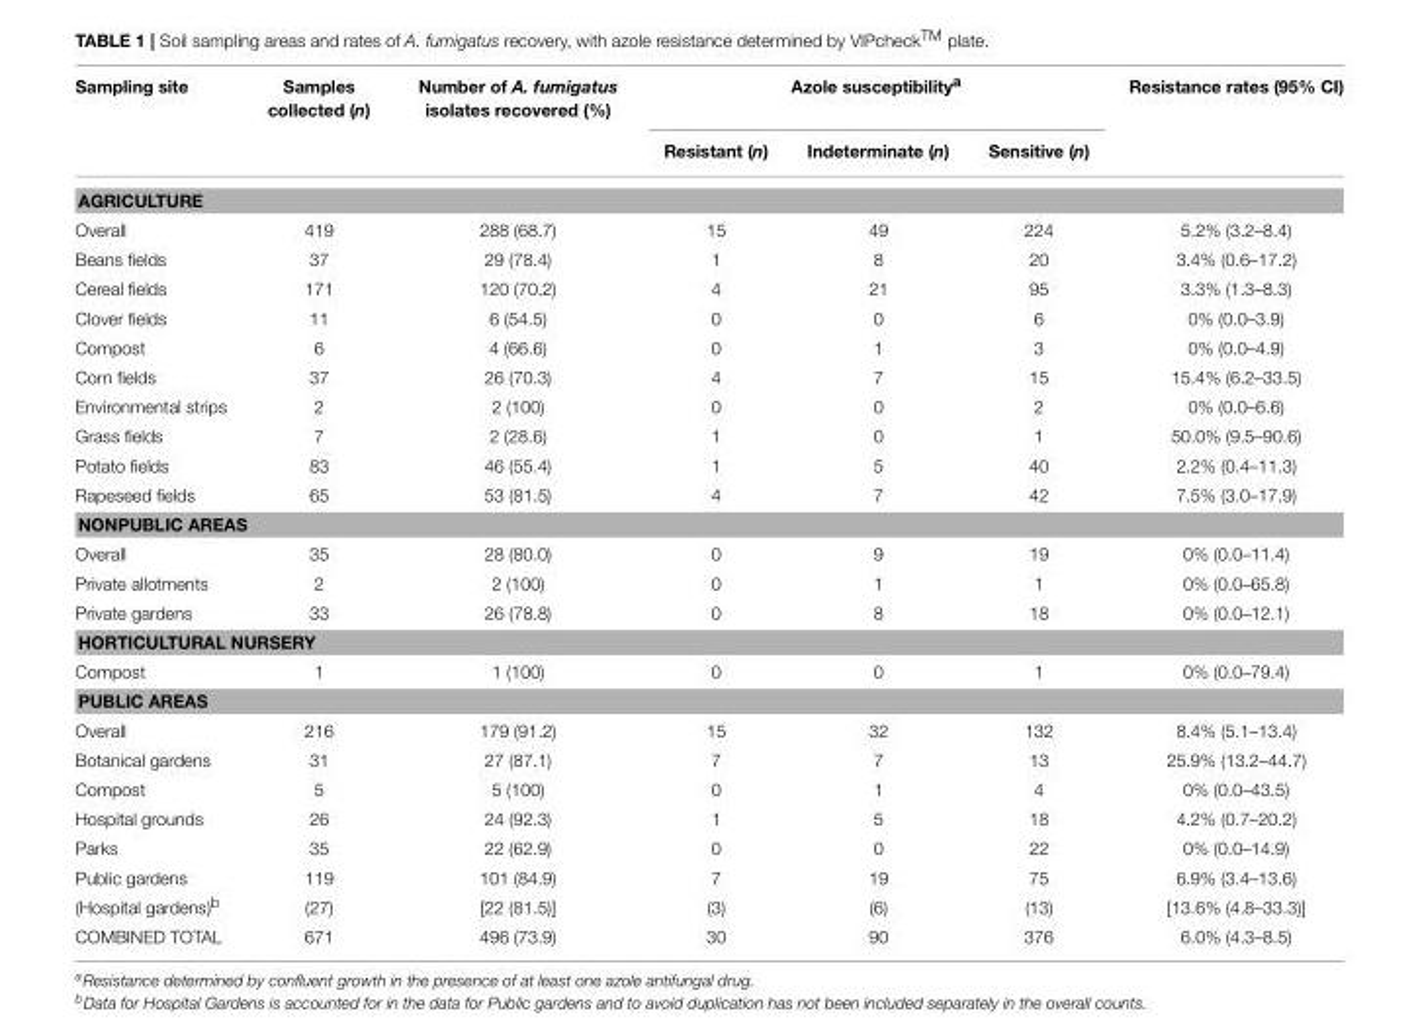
<table><thead><tr><td rowspan="2">Sampling site</td><td rowspan="2">Samples collected (n)</td><td rowspan="2">Number of A. fumigatus isolates recovered (%)</td><td colspan="3">Azole susceptibility<sup>a</sup></td><td rowspan="2">Resistance rates (95% CI)</td></tr><tr><td>Resistant (n)</td><td>Indeterminate (n)</td><td>Sensitive (n)</td></tr></thead><tbody><tr><td colspan="7">AGRICULTURE</td></tr><tr><td>Overall</td><td>419</td><td>288 (68.7)</td><td>15</td><td>49</td><td>224</td><td>5.2% (3.2–8.4)</td></tr><tr><td>Beans fields</td><td>37</td><td>29 (78.4)</td><td>1</td><td>8</td><td>20</td><td>3.4% (0.6–17.2)</td></tr><tr><td>Cereal fields</td><td>171</td><td>120 (70.2)</td><td>4</td><td>21</td><td>95</td><td>3.3% (1.3–8.3)</td></tr><tr><td>Clover fields</td><td>11</td><td>6 (54.5)</td><td>0</td><td>0</td><td>6</td><td>0% (0.0–3.9)</td></tr><tr><td>Compost</td><td>6</td><td>4 (66.6)</td><td>0</td><td>1</td><td>3</td><td>0% (0.0–4.9)</td></tr><tr><td>Corn fields</td><td>37</td><td>26 (70.3)</td><td>4</td><td>7</td><td>15</td><td>15.4% (6.2–33.5)</td></tr><tr><td>Environmental strips</td><td>2</td><td>2 (100)</td><td>0</td><td>0</td><td>2</td><td>0% (0.0–6.6)</td></tr><tr><td>Grass fields</td><td>7</td><td>2 (28.6)</td><td>1</td><td>0</td><td>1</td><td>50.0% (9.5–90.6)</td></tr><tr><td>Potato fields</td><td>83</td><td>46 (55.4)</td><td>1</td><td>5</td><td>40</td><td>2.2% (0.4–11.3)</td></tr><tr><td>Rapeseed fields</td><td>65</td><td>53 (81.5)</td><td>4</td><td>7</td><td>42</td><td>7.5% (3.0–17.9)</td></tr><tr><td colspan="7">NONPUBLIC AREAS</td></tr><tr><td>Overall</td><td>35</td><td>28 (80.0)</td><td>0</td><td>9</td><td>19</td><td>0% (0.0–11.4)</td></tr><tr><td>Private allotments</td><td>2</td><td>2 (100)</td><td>0</td><td>1</td><td>1</td><td>0% (0.0–65.8)</td></tr><tr><td>Private gardens</td><td>33</td><td>26 (78.8)</td><td>0</td><td>8</td><td>18</td><td>0% (0.0–12.1)</td></tr><tr><td colspan="7">HORTICULTURAL NURSERY</td></tr><tr><td>Compost</td><td>1</td><td>1 (100)</td><td>0</td><td>0</td><td>1</td><td>0% (0.0–79.4)</td></tr><tr><td colspan="7">PUBLIC AREAS</td></tr><tr><td>Overall</td><td>216</td><td>179 (91.2)</td><td>15</td><td>32</td><td>132</td><td>8.4% (5.1–13.4)</td></tr><tr><td>Botanical gardens</td><td>31</td><td>27 (87.1)</td><td>7</td><td>7</td><td>13</td><td>25.9% (13.2–44.7)</td></tr><tr><td>Compost</td><td>5</td><td>5 (100)</td><td>0</td><td>1</td><td>4</td><td>0% (0.0–43.5)</td></tr><tr><td>Hospital grounds</td><td>26</td><td>24 (92.3)</td><td>1</td><td>5</td><td>18</td><td>4.2% (0.7–20.2)</td></tr><tr><td>Parks</td><td>35</td><td>22 (62.9)</td><td>0</td><td>0</td><td>22</td><td>0% (0.0–14.9)</td></tr><tr><td>Public gardens</td><td>119</td><td>101 (84.9)</td><td>7</td><td>19</td><td>75</td><td>6.9% (3.4–13.6)</td></tr><tr><td>(Hospital gardens)<sup>b</sup></td><td>(27)</td><td>[22 (81.5)]</td><td>(3)</td><td>(6)</td><td>(13)</td><td>[13.6% (4.8–33.3)]</td></tr><tr><td>COMBINED TOTAL</td><td>671</td><td>496 (73.9)</td><td>30</td><td>90</td><td>376</td><td>6.0% (4.3–8.5)</td></tr></tbody></table>